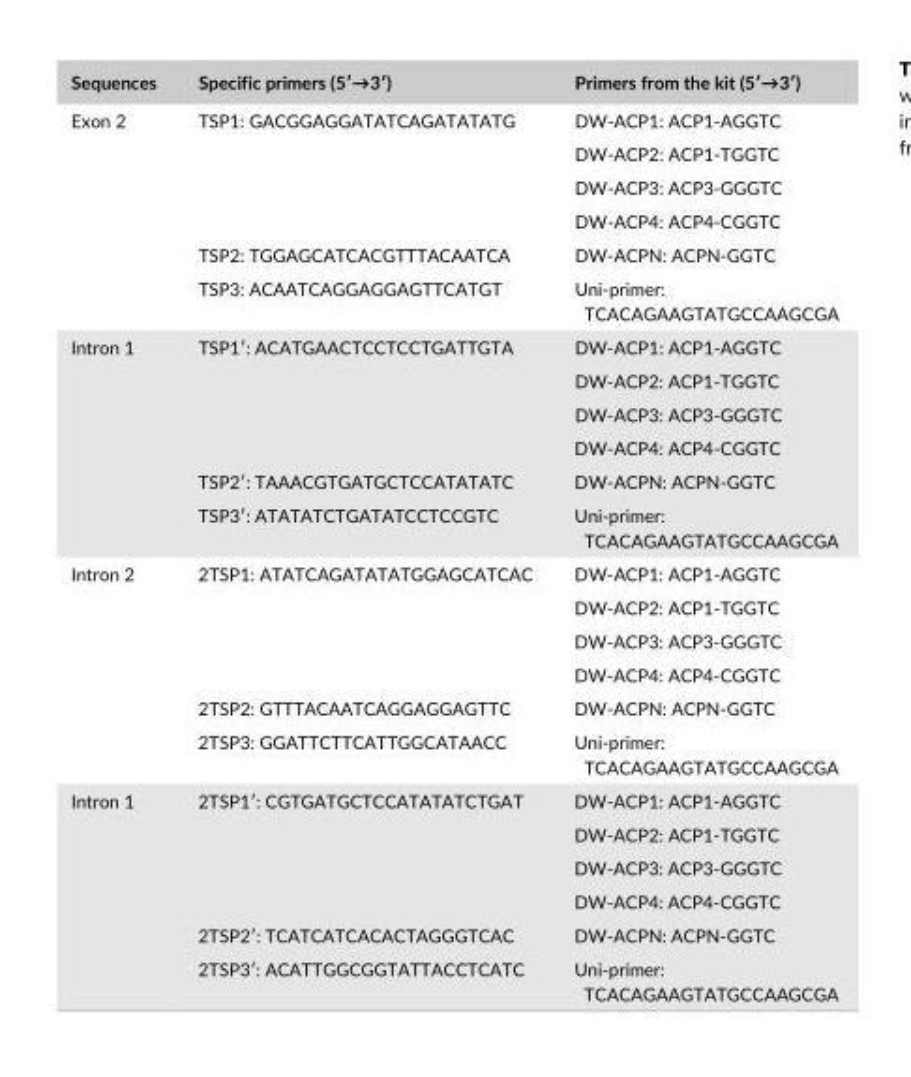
<table><thead><tr><td>Sequences</td><td>Specific primers (5′→3′)</td><td>Primers from the kit (5′→3′)</td></tr></thead><tbody><tr><td rowspan="6">Exon 2</td><td rowspan="4">TSP1: GACGGAGGATATCAGATATATG</td><td>DW- ACP1: ACP1- AGGTC</td></tr><tr><td>DW- ACP2: ACP1- TGGTC</td></tr><tr><td>DW- ACP3: ACP3- GGGTC</td></tr><tr><td>DW- ACP4: ACP4- CGGTC</td></tr><tr><td>TSP2: TGGAGCATCACGTTTACAATCA</td><td>DW- ACPN: ACPN- GGTC</td></tr><tr><td>TSP3: ACAATCAGGAGGAGTTCATGT</td><td>Uni- primer: TCACAGAAGTATGCCAAGCGA</td></tr><tr><td rowspan="6">Intron 1</td><td rowspan="4">TSP1′: ACATGAACTCCTCCTGATTGTA</td><td>DW- ACP1: ACP1- AGGTC</td></tr><tr><td>DW- ACP2: ACP1- TGGTC</td></tr><tr><td>DW- ACP3: ACP3- GGGTC</td></tr><tr><td>DW- ACP4: ACP4- CGGTC</td></tr><tr><td>TSP2′: TAAACGTGATGCTCCATATATC</td><td>DW- ACPN: ACPN- GGTC</td></tr><tr><td>TSP3′: ATATATCTGATATCCTCCGTC</td><td>Uni- primer: TCACAGAAGTATGCCAAGCGA</td></tr><tr><td rowspan="6">Intron 2</td><td rowspan="4">2TSP1: ATATCAGATATATGGAGCATCAC</td><td>DW- ACP1: ACP1- AGGTC</td></tr><tr><td>DW- ACP2: ACP1- TGGTC</td></tr><tr><td>DW- ACP3: ACP3- GGGTC</td></tr><tr><td>DW- ACP4: ACP4- CGGTC</td></tr><tr><td>2TSP2: GTTTACAATCAGGAGGAGTTC</td><td>DW- ACPN: ACPN- GGTC</td></tr><tr><td>2TSP3: GGATTCTTCATTGGCATAACC</td><td>Uni- primer: TCACAGAAGTATGCCAAGCGA</td></tr><tr><td rowspan="6">Intron 1</td><td rowspan="4">2TSP1′: CGTGATGCTCCATATATCTGAT</td><td>DW- ACP1: ACP1- AGGTC</td></tr><tr><td>DW- ACP2: ACP1- TGGTC</td></tr><tr><td>DW- ACP3: ACP3- GGGTC</td></tr><tr><td>DW- ACP4: ACP4- CGGTC</td></tr><tr><td>2TSP2′: TCATCATCACACTAGGGTCAC</td><td>DW- ACPN: ACPN- GGTC</td></tr><tr><td>2TSP3′: ACATTGGCGGTATTACCTCATC</td><td>Uni- primer: TCACAGAAGTATGCCAAGCGA</td></tr></tbody></table>